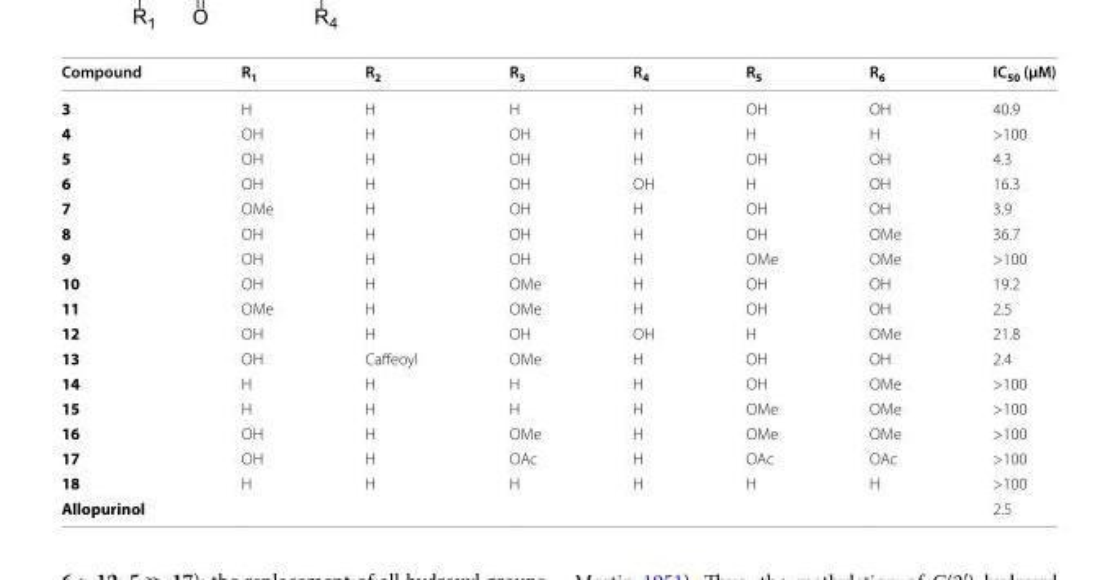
<table><thead><tr><td>Compound</td><td>R<sub>1</sub></td><td>R<sub>2</sub></td><td>R<sub>3</sub></td><td>R<sub>4</sub></td><td>R<sub>5</sub></td><td>R<sub>6</sub></td><td>IC<sub>50</sub> (μM)</td></tr></thead><tbody><tr><td>3</td><td>H</td><td>H</td><td>H</td><td>H</td><td>OH</td><td>OH</td><td>40.9</td></tr><tr><td>4</td><td>OH</td><td>H</td><td>OH</td><td>H</td><td>H</td><td>H</td><td>&gt;100</td></tr><tr><td>5</td><td>OH</td><td>H</td><td>OH</td><td>H</td><td>OH</td><td>OH</td><td>4.3</td></tr><tr><td>6</td><td>OH</td><td>H</td><td>OH</td><td>OH</td><td>H</td><td>OH</td><td>16.3</td></tr><tr><td>7</td><td>OMe</td><td>H</td><td>OH</td><td>H</td><td>OH</td><td>OH</td><td>3.9</td></tr><tr><td>8</td><td>OH</td><td>H</td><td>OH</td><td>H</td><td>OH</td><td>OMe</td><td>36.7</td></tr><tr><td>9</td><td>OH</td><td>H</td><td>OH</td><td>H</td><td>OMe</td><td>OMe</td><td>&gt;100</td></tr><tr><td>10</td><td>OH</td><td>H</td><td>OMe</td><td>H</td><td>OH</td><td>OH</td><td>19.2</td></tr><tr><td>11</td><td>OMe</td><td>H</td><td>OMe</td><td>H</td><td>OH</td><td>OH</td><td>2.5</td></tr><tr><td>12</td><td>OH</td><td>H</td><td>OH</td><td>OH</td><td>H</td><td>OMe</td><td>21.8</td></tr><tr><td>13</td><td>OH</td><td>Caffeoyl</td><td>OMe</td><td>H</td><td>OH</td><td>OH</td><td>2.4</td></tr><tr><td>14</td><td>H</td><td>H</td><td>H</td><td>H</td><td>OH</td><td>OMe</td><td>&gt;100</td></tr><tr><td>15</td><td>H</td><td>H</td><td>H</td><td>H</td><td>OMe</td><td>OMe</td><td>&gt;100</td></tr><tr><td>16</td><td>OH</td><td>H</td><td>OMe</td><td>H</td><td>OMe</td><td>OMe</td><td>&gt;100</td></tr><tr><td>17</td><td>OH</td><td>H</td><td>OAc</td><td>H</td><td>OAc</td><td>OAc</td><td>&gt;100</td></tr><tr><td>18</td><td>H</td><td>H</td><td>H</td><td>H</td><td>H</td><td>H</td><td>&gt;100</td></tr><tr><td>Allopurinol</td><td colspan="6"></td><td>2.5</td></tr></tbody></table>